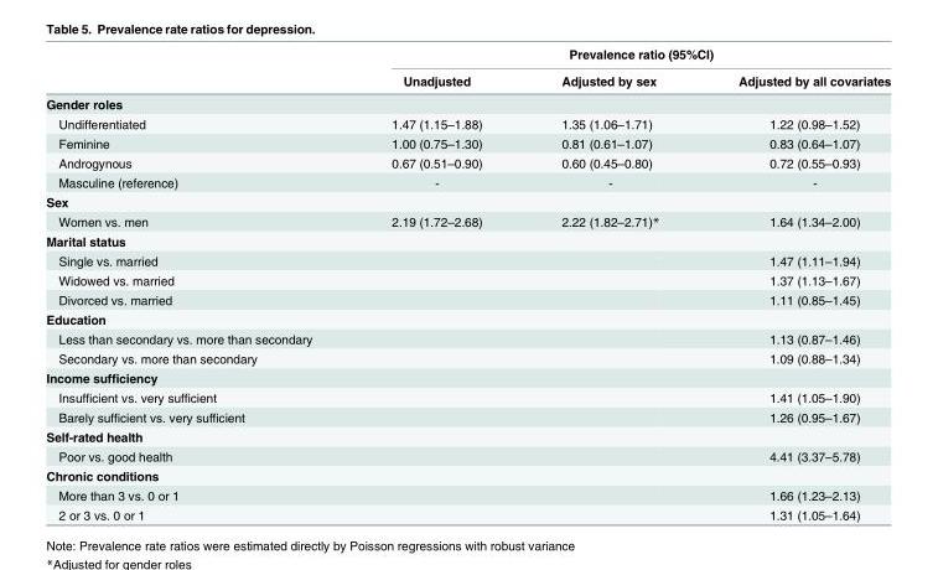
<table><thead><tr><td rowspan="2"></td><td colspan="3">Prevalence ratio (95%CI)</td></tr><tr><td>Unadjusted</td><td>Adjusted by sex</td><td>Adjusted by all covariates</td></tr></thead><tbody><tr><td colspan="4">Gender roles</td></tr><tr><td>Undifferentiated</td><td>1.47 (1.15–1.88)</td><td>1.35 (1.06–1.71)</td><td>1.22 (0.98–1.52)</td></tr><tr><td>Feminine</td><td>1.00 (0.75–1.30)</td><td>0.81 (0.61–1.07)</td><td>0.83 (0.64–1.07)</td></tr><tr><td>Androgynous</td><td>0.67 (0.51–0.90)</td><td>0.60 (0.45–0.80)</td><td>0.72 (0.55–0.93)</td></tr><tr><td>Masculine (reference)</td><td>-</td><td>-</td><td>-</td></tr><tr><td colspan="4">Sex</td></tr><tr><td>Women vs. men</td><td>2.19 (1.72–2.68)</td><td>2.22 (1.82–2.71)*</td><td>1.64 (1.34–2.00)</td></tr><tr><td colspan="4">Marital status</td></tr><tr><td>Single vs. married</td><td></td><td></td><td>1.47 (1.11–1.94)</td></tr><tr><td>Widowed vs. married</td><td></td><td></td><td>1.37 (1.13–1.67)</td></tr><tr><td>Divorced vs. married</td><td></td><td></td><td>1.11 (0.85–1.45)</td></tr><tr><td colspan="4">Education</td></tr><tr><td>Less than secondary vs. more than secondary</td><td></td><td></td><td>1.13 (0.87–1.46)</td></tr><tr><td>Secondary vs. more than secondary</td><td></td><td></td><td>1.09 (0.88–1.34)</td></tr><tr><td colspan="4">Income sufficiency</td></tr><tr><td>Insufficient vs. very sufficient</td><td></td><td></td><td>1.41 (1.05–1.90)</td></tr><tr><td>Barely sufficient vs. very sufficient</td><td></td><td></td><td>1.26 (0.95–1.67)</td></tr><tr><td colspan="4">Self-rated health</td></tr><tr><td>Poor vs. good health</td><td></td><td></td><td>4.41 (3.37–5.78)</td></tr><tr><td colspan="4">Chronic conditions</td></tr><tr><td>More than 3 vs. 0 or 1</td><td></td><td></td><td>1.66 (1.23–2.13)</td></tr><tr><td>2 or 3 vs. 0 or 1</td><td></td><td></td><td>1.31 (1.05–1.64)</td></tr></tbody></table>